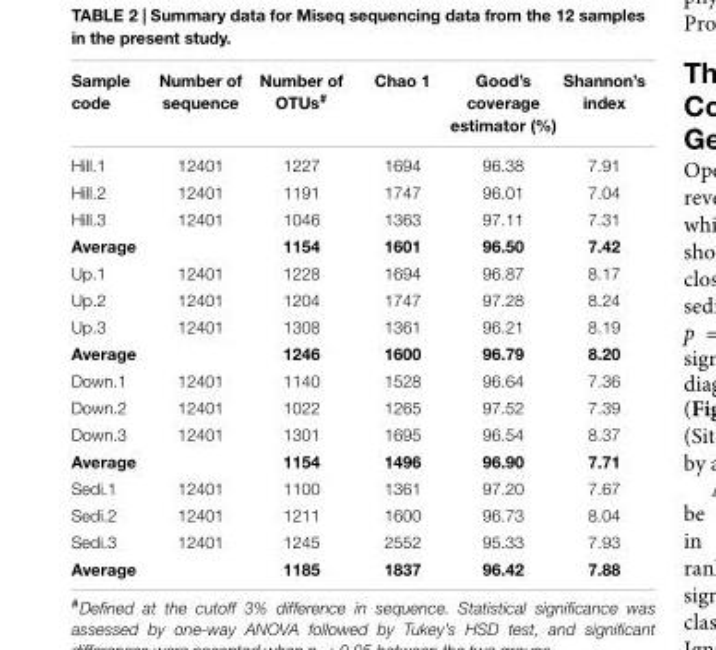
<table><thead><tr><td>Sample code</td><td>Number of sequence</td><td>Number of OTUs<sup>#</sup></td><td>Chao 1</td><td>Good’s coverage estimator (%)</td><td>Shannon’s index</td></tr></thead><tbody><tr><td>Hill.1</td><td>12401</td><td>1227</td><td>1694</td><td>96.38</td><td>7.91</td></tr><tr><td>Hill.2</td><td>12401</td><td>1191</td><td>1747</td><td>96.01</td><td>7.04</td></tr><tr><td>Hill.3</td><td>12401</td><td>1046</td><td>1363</td><td>97.11</td><td>7.31</td></tr><tr><td>Average</td><td></td><td>1154</td><td>1601</td><td>96.50</td><td>7.42</td></tr><tr><td>Up.1</td><td>12401</td><td>1228</td><td>1694</td><td>96.87</td><td>8.17</td></tr><tr><td>Up.2</td><td>12401</td><td>1204</td><td>1747</td><td>97.28</td><td>8.24</td></tr><tr><td>Up.3</td><td>12401</td><td>1308</td><td>1361</td><td>96.21</td><td>8.19</td></tr><tr><td>Average</td><td></td><td>1246</td><td>1600</td><td>96.79</td><td>8.20</td></tr><tr><td>Down.1</td><td>12401</td><td>1140</td><td>1528</td><td>96.64</td><td>7.36</td></tr><tr><td>Down.2</td><td>12401</td><td>1022</td><td>1265</td><td>97.52</td><td>7.39</td></tr><tr><td>Down.3</td><td>12401</td><td>1301</td><td>1695</td><td>96.54</td><td>8.37</td></tr><tr><td>Average</td><td></td><td>1154</td><td>1496</td><td>96.90</td><td>7.71</td></tr><tr><td>Sedi.1</td><td>12401</td><td>1100</td><td>1361</td><td>97.20</td><td>7.67</td></tr><tr><td>Sedi.2</td><td>12401</td><td>1211</td><td>1600</td><td>96.73</td><td>8.04</td></tr><tr><td>Sedi.3</td><td>12401</td><td>1245</td><td>2552</td><td>95.33</td><td>7.93</td></tr><tr><td>Average</td><td></td><td>1185</td><td>1837</td><td>96.42</td><td>7.88</td></tr></tbody></table>